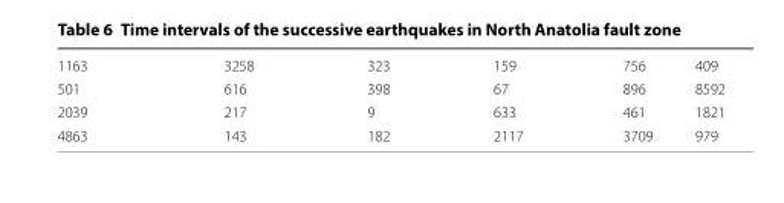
<table><tbody><tr><td>1163</td><td>3258</td><td>323</td><td>159</td><td>756</td><td>409</td></tr><tr><td>501</td><td>616</td><td>398</td><td>67</td><td>896</td><td>8592</td></tr><tr><td>2039</td><td>217</td><td>9</td><td>633</td><td>461</td><td>1821</td></tr><tr><td>4863</td><td>143</td><td>182</td><td>2117</td><td>3709</td><td>979</td></tr></tbody></table>